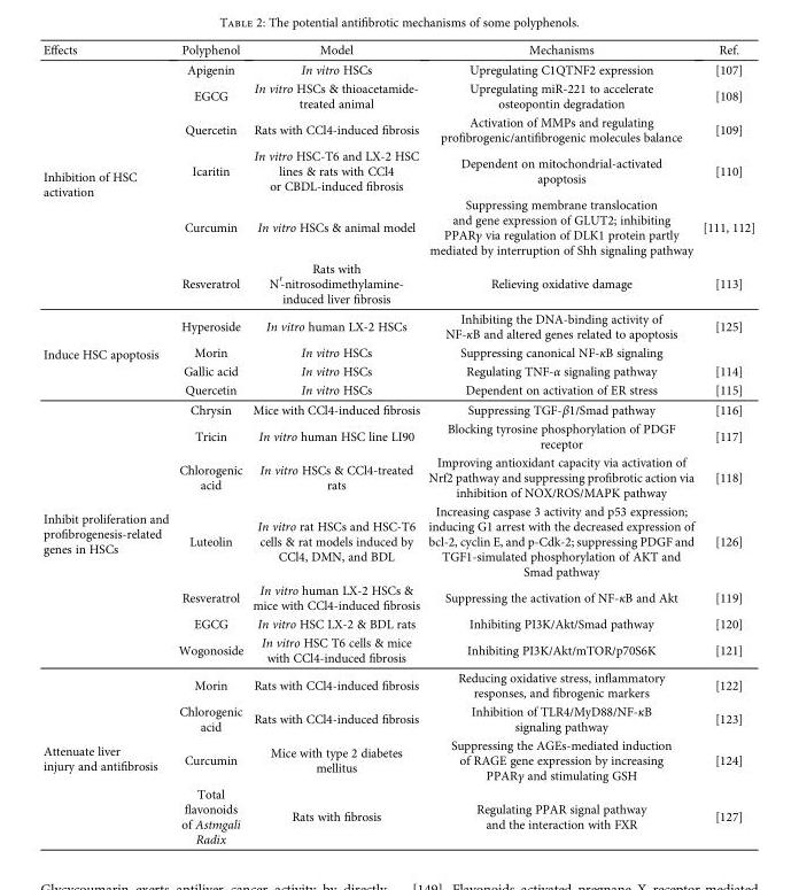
<table><thead><tr><td>Effects</td><td>Polyphenol</td><td>Model</td><td>Mechanisms</td><td>Ref.</td></tr></thead><tbody><tr><td rowspan="6">Inhibition of HSC activation</td><td>Apigenin</td><td>In vitro HSCs</td><td>Upregulating C1QTNF2 expression</td><td>[107]</td></tr><tr><td>EGCG</td><td>In vitro HSCs &amp; thioacetamide- treated animal</td><td>Upregulating miR-221 to accelerate osteopontin degradation</td><td>[108]</td></tr><tr><td>Quercetin</td><td>Rats with CCl4-induced fibrosis</td><td>Activation of MMPs and regulating profibrogenic/antifibrogenic molecules balance</td><td>[109]</td></tr><tr><td>Icaritin</td><td>In vitro HSC-T6 and LX-2 HSC lines &amp; rats with CCl4 or CBDL-induced fibrosis</td><td>Dependent on mitochondrial-activated apoptosis</td><td>[110]</td></tr><tr><td>Curcumin</td><td>In vitro HSCs &amp; animal model</td><td>Suppressing membrane translocation and gene expression of GLUT2; inhibiting PPARγ via regulation of DLK1 protein partly mediated by interruption of Shh signaling pathway</td><td>[111, 112]</td></tr><tr><td>Resveratrol</td><td>Rats with N′-nitrosodimethylamine- induced liver fibrosis</td><td>Relieving oxidative damage</td><td>[113]</td></tr><tr><td rowspan="4">Induce HSC apoptosis</td><td>Hyperoside</td><td>In vitro human LX-2 HSCs</td><td>Inhibiting the DNA-binding activity of NF-κB and altered genes related to apoptosis</td><td>[125]</td></tr><tr><td>Morin</td><td>In vitro HSCs</td><td>Suppressing canonical NF-κB signaling</td><td></td></tr><tr><td>Gallic acid</td><td>In vitro HSCs</td><td>Regulating TNF-α signaling pathway</td><td>[114]</td></tr><tr><td>Quercetin</td><td>In vitro HSCs</td><td>Dependent on activation of ER stress</td><td>[115]</td></tr><tr><td rowspan="7">Inhibit proliferation and profibrogenesis-related genes in HSCs</td><td>Chrysin</td><td>Mice with CCl4-induced fibrosis</td><td>Suppressing TGF-β1/Smad pathway</td><td>[116]</td></tr><tr><td>Tricin</td><td>In vitro human HSC line LI90</td><td>Blocking tyrosine phosphorylation of PDGF receptor</td><td>[117]</td></tr><tr><td>Chlorogenic acid</td><td>In vitro HSCs &amp; CCl4-treated rats</td><td>Improving antioxidant capacity via activation of Nrf2 pathway and suppressing profibrotic action via inhibition of NOX/ROS/MAPK pathway</td><td>[118]</td></tr><tr><td>Luteolin</td><td>In vitro rat HSCs and HSC-T6 cells &amp; rat models induced by CCl4, DMN, and BDL</td><td>Increasing caspase 3 activity and p53 expression; inducing G1 arrest with the decreased expression of bcl-2, cyclin E, and p-Cdk-2; suppressing PDGF and TGF1-simulated phosphorylation of AKT and Smad pathway</td><td>[126]</td></tr><tr><td>Resveratrol</td><td>In vitro human LX-2 HSCs &amp; mice with CCl4-induced fibrosis</td><td>Suppressing the activation of NF-κB and Akt</td><td>[119]</td></tr><tr><td>EGCG</td><td>In vitro HSC LX-2 &amp; BDL rats</td><td>Inhibiting PI3K/Akt/Smad pathway</td><td>[120]</td></tr><tr><td>Wogonoside</td><td>In vitro HSC T6 cells &amp; mice with CCl4-induced fibrosis</td><td>Inhibiting PI3K/Akt/mTOR/p70S6K</td><td>[121]</td></tr><tr><td rowspan="4">Attenuate liver injury and antifibrosis</td><td>Morin</td><td>Rats with CCl4-induced fibrosis</td><td>Reducing oxidative stress, inflammatory responses, and fibrogenic markers</td><td>[122]</td></tr><tr><td>Chlorogenic acid</td><td>Rats with CCl4-induced fibrosis</td><td>Inhibition of TLR4/MyD88/NF-κB signaling pathway</td><td>[123]</td></tr><tr><td>Curcumin</td><td>Mice with type 2 diabetes mellitus</td><td>Suppressing the AGEs-mediated induction of RAGE gene expression by increasing PPARγ and stimulating GSH</td><td>[124]</td></tr><tr><td>Total flavonoids of Astmgali Radix</td><td>Rats with fibrosis</td><td>Regulating PPAR signal pathway and the interaction with FXR</td><td>[127]</td></tr></tbody></table>